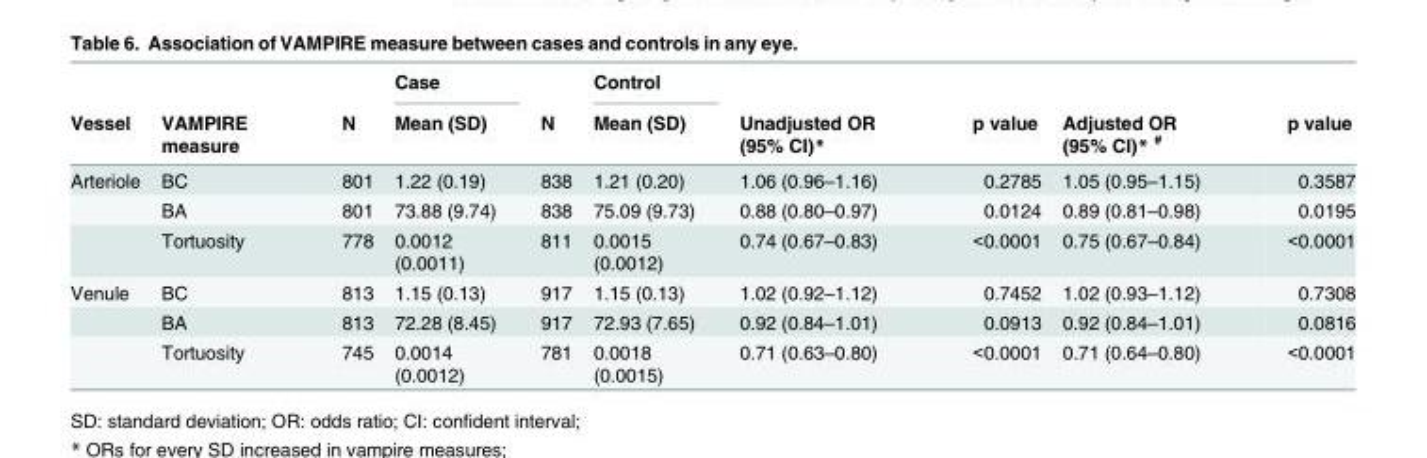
<table><thead><tr><td rowspan="2">Vessel</td><td rowspan="2">VAMPIRE measure</td><td rowspan="2">N</td><td rowspan="2">Case Mean (SD)</td><td rowspan="2">N</td><td rowspan="2">Control Mean (SD)</td><td rowspan="2">Unadjusted OR (95% CI)*</td><td rowspan="2">p value</td><td rowspan="2">Adjusted OR (95% CI)* <sup>#</sup></td><td rowspan="2">p value</td></tr><tr></tr></thead><tbody><tr><td rowspan="3">Arteriole</td><td>BC</td><td>801</td><td>1.22 (0.19)</td><td>838</td><td>1.21 (0.20)</td><td>1.06 (0.96–1.16)</td><td>0.2785</td><td>1.05 (0.95–1.15)</td><td>0.3587</td></tr><tr><td>BA</td><td>801</td><td>73.88 (9.74)</td><td>838</td><td>75.09 (9.73)</td><td>0.88 (0.80–0.97)</td><td>0.0124</td><td>0.89 (0.81–0.98)</td><td>0.0195</td></tr><tr><td>Tortuosity</td><td>778</td><td>0.0012 (0.0011)</td><td>811</td><td>0.0015 (0.0012)</td><td>0.74 (0.67–0.83)</td><td>&lt;0.0001</td><td>0.75 (0.67–0.84)</td><td>&lt;0.0001</td></tr><tr><td rowspan="3">Venule</td><td>BC</td><td>813</td><td>1.15 (0.13)</td><td>917</td><td>1.15 (0.13)</td><td>1.02 (0.92–1.12)</td><td>0.7452</td><td>1.02 (0.93–1.12)</td><td>0.7308</td></tr><tr><td>BA</td><td>813</td><td>72.28 (8.45)</td><td>917</td><td>72.93 (7.65)</td><td>0.92 (0.84–1.01)</td><td>0.0913</td><td>0.92 (0.84–1.01)</td><td>0.0816</td></tr><tr><td>Tortuosity</td><td>745</td><td>0.0014 (0.0012)</td><td>781</td><td>0.0018 (0.0015)</td><td>0.71 (0.63–0.80)</td><td>&lt;0.0001</td><td>0.71 (0.64–0.80)</td><td>&lt;0.0001</td></tr></tbody></table>